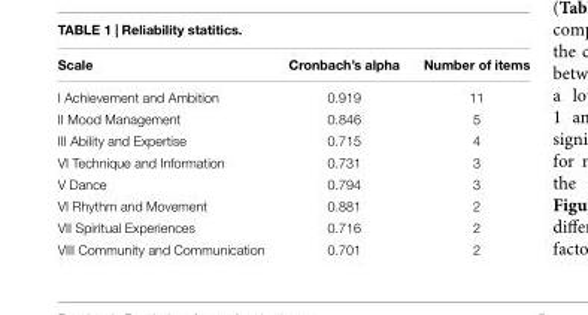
<table><thead><tr><td>Scale</td><td>Cronbach’s alpha</td><td>Number of items</td></tr></thead><tbody><tr><td>I Achievement and Ambition</td><td>0.919</td><td>11</td></tr><tr><td>II Mood Management</td><td>0.846</td><td>5</td></tr><tr><td>III Ability and Expertise</td><td>0.715</td><td>4</td></tr><tr><td>VI Technique and Information</td><td>0.731</td><td>3</td></tr><tr><td>V Dance</td><td>0.794</td><td>3</td></tr><tr><td>VI Rhythm and Movement</td><td>0.881</td><td>2</td></tr><tr><td>VII Spiritual Experiences</td><td>0.716</td><td>2</td></tr><tr><td>VIII Community and Communication</td><td>0.701</td><td>2</td></tr></tbody></table>